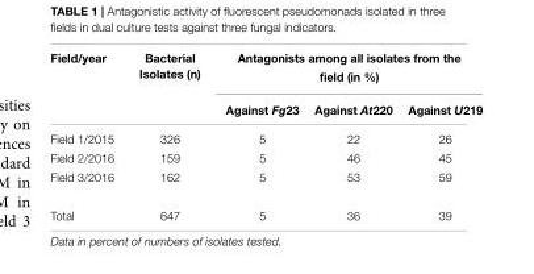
<table><thead><tr><td rowspan="2">Field/year</td><td rowspan="2">Bacterial Isolates (n)</td><td colspan="3">Antagonists among all isolates from the field (in %)</td></tr><tr><td>Against Fg23</td><td>Against At220</td><td>Against U219</td></tr></thead><tbody><tr><td>Field 1/2015</td><td>326</td><td>5</td><td>22</td><td>26</td></tr><tr><td>Field 2/2016</td><td>159</td><td>5</td><td>46</td><td>45</td></tr><tr><td>Field 3/2016</td><td>162</td><td>5</td><td>53</td><td>59</td></tr><tr><td>Total</td><td>647</td><td>5</td><td>36</td><td>39</td></tr></tbody></table>